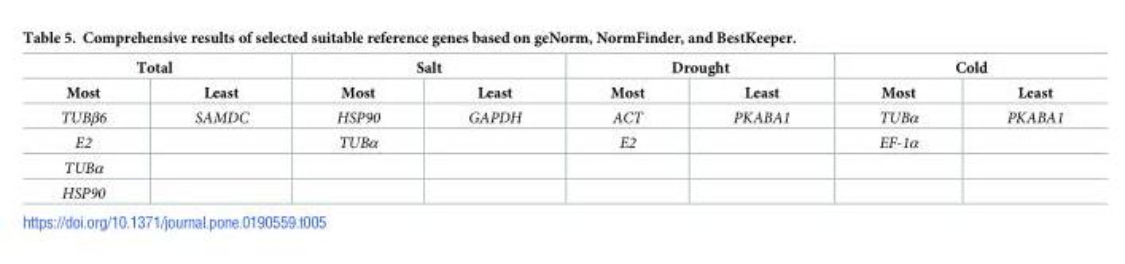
<table><thead><tr><td colspan="2">Total</td><td colspan="2">Salt</td><td colspan="2">Drought</td><td colspan="2">Cold</td></tr><tr><td>Most</td><td>Least</td><td>Most</td><td>Least</td><td>Most</td><td>Least</td><td>Most</td><td>Least</td></tr></thead><tbody><tr><td>TUBβ6</td><td>SAMDC</td><td>HSP90</td><td>GAPDH</td><td>ACT</td><td>PKABA1</td><td>TUBα</td><td>PKABA1</td></tr><tr><td>E2</td><td></td><td>TUBα</td><td></td><td>E2</td><td></td><td>EF-1α</td><td></td></tr><tr><td colspan="8">TUBα</td></tr><tr><td>HSP90</td><td></td><td></td><td></td><td></td><td></td><td></td><td></td></tr></tbody></table>